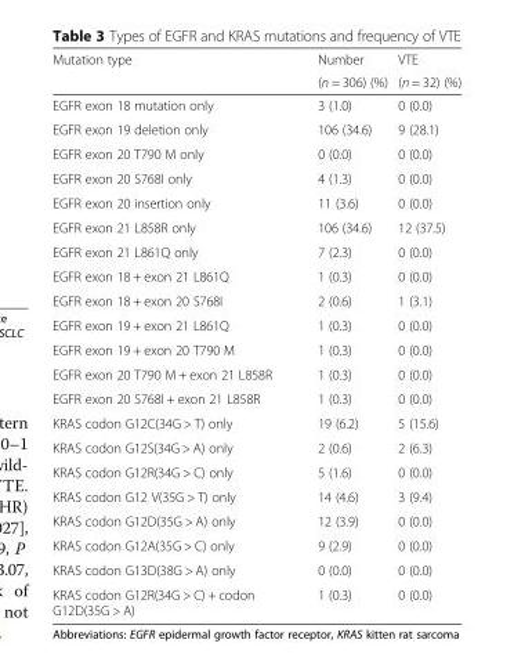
<table><thead><tr><td rowspan="2">Mutation type</td><td rowspan="2">Number (n = 306) (%)</td><td rowspan="2">VTE (n = 32) (%)</td></tr><tr></tr></thead><tbody><tr><td>EGFR exon 18 mutation only</td><td>3 (1.0)</td><td>0 (0.0)</td></tr><tr><td>EGFR exon 19 deletion only</td><td>106 (34.6)</td><td>9 (28.1)</td></tr><tr><td>EGFR exon 20 T790 M only</td><td>0 (0.0)</td><td>0 (0.0)</td></tr><tr><td>EGFR exon 20 S768I only</td><td>4 (1.3)</td><td>0 (0.0)</td></tr><tr><td>EGFR exon 20 insertion only</td><td>11 (3.6)</td><td>0 (0.0)</td></tr><tr><td>EGFR exon 21 L858R only</td><td>106 (34.6)</td><td>12 (37.5)</td></tr><tr><td>EGFR exon 21 L861Q only</td><td>7 (2.3)</td><td>0 (0.0)</td></tr><tr><td>EGFR exon 18 + exon 21 L861Q</td><td>1 (0.3)</td><td>0 (0.0)</td></tr><tr><td>EGFR exon 18 + exon 20 S768I</td><td>2 (0.6)</td><td>1 (3.1)</td></tr><tr><td>EGFR exon 19 + exon 21 L861Q</td><td>1 (0.3)</td><td>0 (0.0)</td></tr><tr><td>EGFR exon 19 + exon 20 T790 M</td><td>1 (0.3)</td><td>0 (0.0)</td></tr><tr><td>EGFR exon 20 T790 M + exon 21 L858R</td><td>1 (0.3)</td><td>0 (0.0)</td></tr><tr><td>EGFR exon 20 S768I + exon 21 L858R</td><td>1 (0.3)</td><td>0 (0.0)</td></tr><tr><td>KRAS codon G12C(34G &gt; T) only</td><td>19 (6.2)</td><td>5 (15.6)</td></tr><tr><td>KRAS codon G12S(34G &gt; A) only</td><td>2 (0.6)</td><td>2 (6.3)</td></tr><tr><td>KRAS codon G12R(34G &gt; C) only</td><td>5 (1.6)</td><td>0 (0.0)</td></tr><tr><td>KRAS codon G12 V(35G &gt; T) only</td><td>14 (4.6)</td><td>3 (9.4)</td></tr><tr><td>KRAS codon G12D(35G &gt; A) only</td><td>12 (3.9)</td><td>0 (0.0)</td></tr><tr><td>KRAS codon G12A(35G &gt; C) only</td><td>9 (2.9)</td><td>0 (0.0)</td></tr><tr><td>KRAS codon G13D(38G &gt; A) only</td><td>0 (0.0)</td><td>0 (0.0)</td></tr><tr><td>KRAS codon G12R(34G &gt; C) + codon G12D(35G &gt; A)</td><td>1 (0.3)</td><td>0 (0.0)</td></tr></tbody></table>